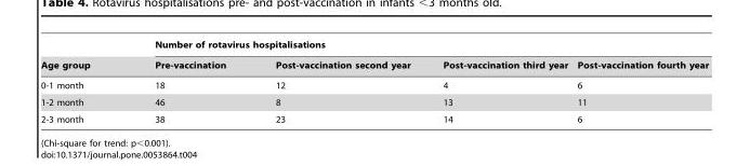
<table><thead><tr><td rowspan="2">Age group</td><td colspan="4">Number of rotavirus hospitalisations</td></tr><tr><td>Pre-vaccination</td><td>Post-vaccination second year</td><td>Post-vaccination third year</td><td>Post-vaccination fourth year</td></tr></thead><tbody><tr><td>0-1 month</td><td>18</td><td>12</td><td>4</td><td>6</td></tr><tr><td>1-2 month</td><td>46</td><td>8</td><td>13</td><td>11</td></tr><tr><td>2-3 month</td><td>38</td><td>23</td><td>14</td><td>6</td></tr></tbody></table>